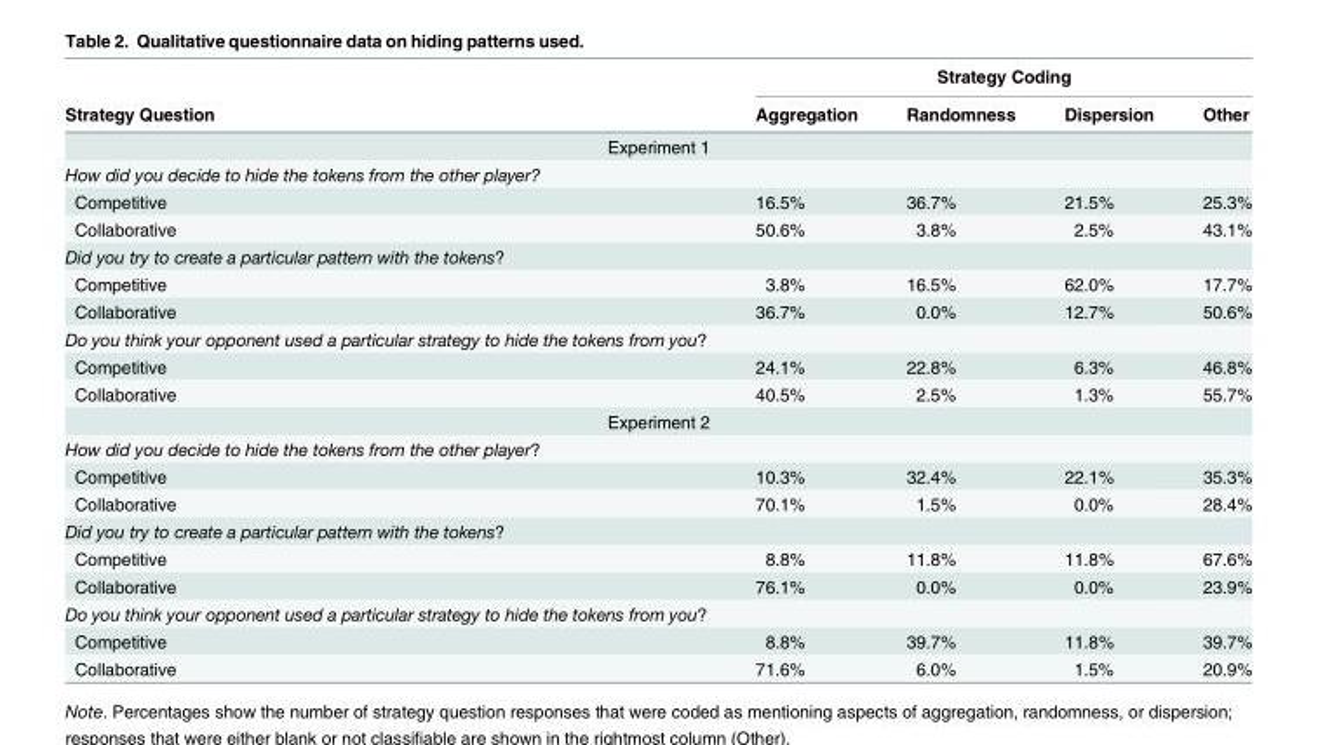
<table><thead><tr><td rowspan="2">Strategy Question</td><td colspan="4">Strategy Coding</td></tr><tr><td>Aggregation</td><td>Randomness</td><td>Dispersion</td><td>Other</td></tr></thead><tbody><tr><td colspan="5">Experiment 1</td></tr><tr><td colspan="5">How did you decide to hide the tokens from the other player?</td></tr><tr><td>Competitive</td><td>16.5%</td><td>36.7%</td><td>21.5%</td><td>25.3%</td></tr><tr><td>Collaborative</td><td>50.6%</td><td>3.8%</td><td>2.5%</td><td>43.1%</td></tr><tr><td colspan="5">Did you try to create a particular pattern with the tokens?</td></tr><tr><td>Competitive</td><td>3.8%</td><td>16.5%</td><td>62.0%</td><td>17.7%</td></tr><tr><td>Collaborative</td><td>36.7%</td><td>0.0%</td><td>12.7%</td><td>50.6%</td></tr><tr><td colspan="5">Do you think your opponent used a particular strategy to hide the tokens from you?</td></tr><tr><td>Competitive</td><td>24.1%</td><td>22.8%</td><td>6.3%</td><td>46.8%</td></tr><tr><td>Collaborative</td><td>40.5%</td><td>2.5%</td><td>1.3%</td><td>55.7%</td></tr><tr><td colspan="5">Experiment 2</td></tr><tr><td colspan="5">How did you decide to hide the tokens from the other player?</td></tr><tr><td>Competitive</td><td>10.3%</td><td>32.4%</td><td>22.1%</td><td>35.3%</td></tr><tr><td>Collaborative</td><td>70.1%</td><td>1.5%</td><td>0.0%</td><td>28.4%</td></tr><tr><td colspan="5">Did you try to create a particular pattern with the tokens?</td></tr><tr><td>Competitive</td><td>8.8%</td><td>11.8%</td><td>11.8%</td><td>67.6%</td></tr><tr><td>Collaborative</td><td>76.1%</td><td>0.0%</td><td>0.0%</td><td>23.9%</td></tr><tr><td colspan="5">Do you think your opponent used a particular strategy to hide the tokens from you?</td></tr><tr><td>Competitive</td><td>8.8%</td><td>39.7%</td><td>11.8%</td><td>39.7%</td></tr><tr><td>Collaborative</td><td>71.6%</td><td>6.0%</td><td>1.5%</td><td>20.9%</td></tr></tbody></table>